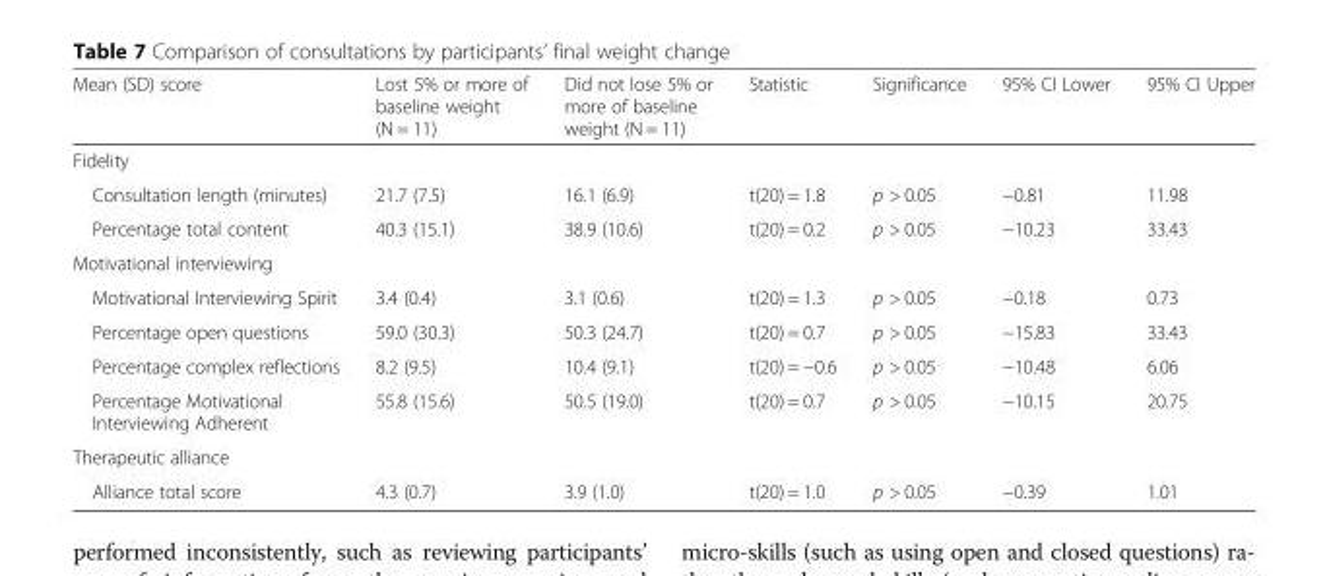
<table><thead><tr><td>Mean (SD) score</td><td>Lost 5% or more of baseline weight (N = 11)</td><td>Did not lose 5% or more of baseline weight (N = 11)</td><td>Statistic</td><td>Significance</td><td>95% CI Lower</td><td>95% CI Upper</td></tr></thead><tbody><tr><td colspan="7">Fidelity</td></tr><tr><td>Consultation length (minutes)</td><td>21.7 (7.5)</td><td>16.1 (6.9)</td><td>t(20) = 1.8</td><td>p &gt; 0.05</td><td>−0.81</td><td>11.98</td></tr><tr><td>Percentage total content</td><td>40.3 (15.1)</td><td>38.9 (10.6)</td><td>t(20) = 0.2</td><td>p &gt; 0.05</td><td>−10.23</td><td>33.43</td></tr><tr><td colspan="7">Motivational interviewing</td></tr><tr><td>Motivational Interviewing Spirit</td><td>3.4 (0.4)</td><td>3.1 (0.6)</td><td>t(20) = 1.3</td><td>p &gt; 0.05</td><td>−0.18</td><td>0.73</td></tr><tr><td>Percentage open questions</td><td>59.0 (30.3)</td><td>50.3 (24.7)</td><td>t(20) = 0.7</td><td>p &gt; 0.05</td><td>−15.83</td><td>33.43</td></tr><tr><td>Percentage complex reflections</td><td>8.2 (9.5)</td><td>10.4 (9.1)</td><td>t(20) = −0.6</td><td>p &gt; 0.05</td><td>−10.48</td><td>6.06</td></tr><tr><td>Percentage Motivational Interviewing Adherent</td><td>55.8 (15.6)</td><td>50.5 (19.0)</td><td>t(20) = 0.7</td><td>p &gt; 0.05</td><td>−10.15</td><td>20.75</td></tr><tr><td colspan="7">Therapeutic alliance</td></tr><tr><td>Alliance total score</td><td>4.3 (0.7)</td><td>3.9 (1.0)</td><td>t(20) = 1.0</td><td>p &gt; 0.05</td><td>−0.39</td><td>1.01</td></tr></tbody></table>